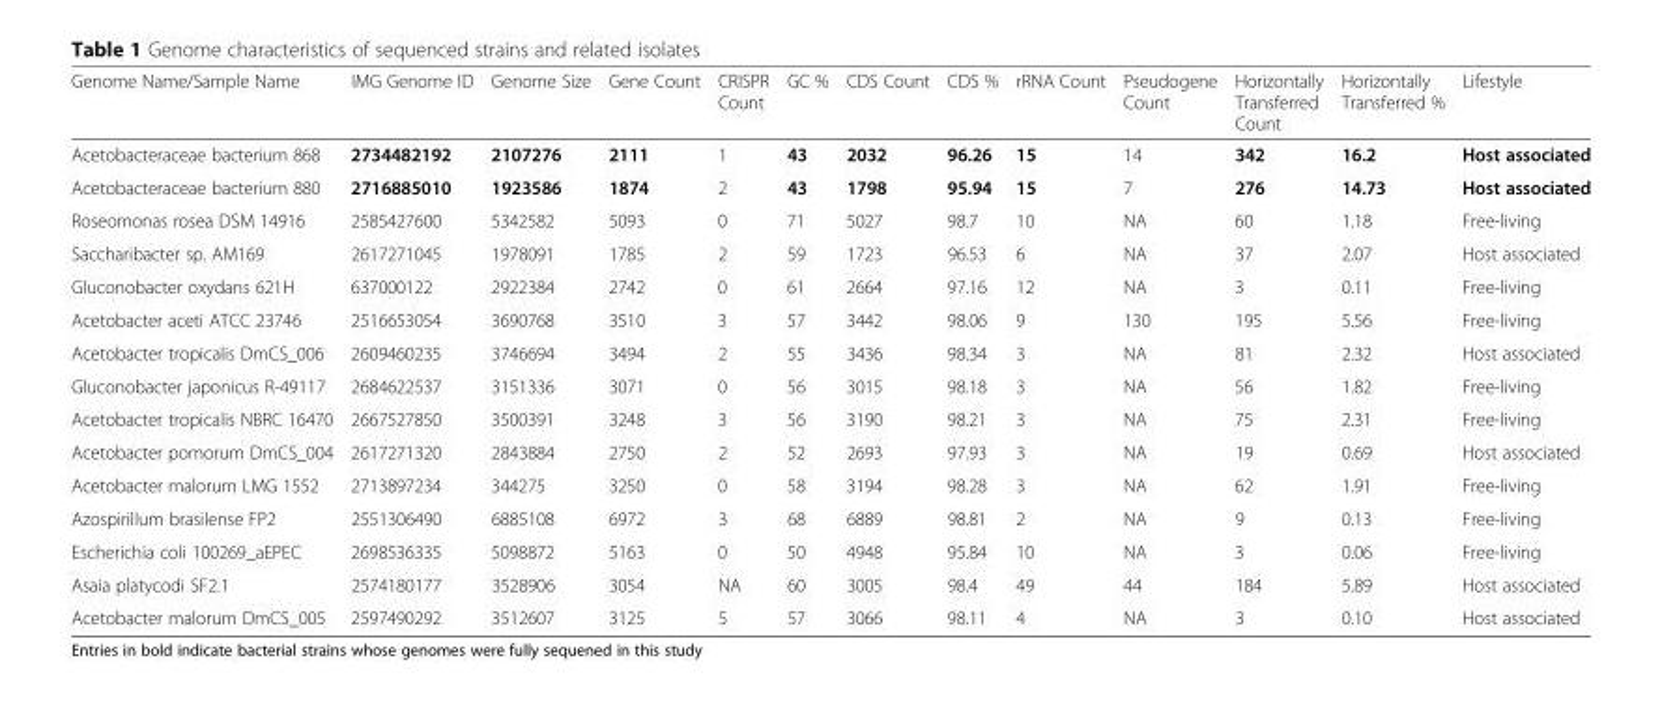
<table><thead><tr><td>Genome Name/Sample Name</td><td>IMG Genome ID</td><td>Genome Size</td><td>Gene Count</td><td>CRISPR Count</td><td>GC %</td><td>CDS Count</td><td>CDS %</td><td>rRNA Count</td><td>Pseudogene Count</td><td>Horizontally Transferred Count</td><td>Horizontally Transferred %</td><td>Lifestyle</td></tr></thead><tbody><tr><td>Acetobacteraceae bacterium 868</td><td>2734482192</td><td>2107276</td><td>2111</td><td>1</td><td>43</td><td>2032</td><td>96.26</td><td>15</td><td>14</td><td>342</td><td>16.2</td><td>Host associated</td></tr><tr><td>Acetobacteraceae bacterium 880</td><td>2716885010</td><td>1923586</td><td>1874</td><td>2</td><td>43</td><td>1798</td><td>95.94</td><td>15</td><td>7</td><td>276</td><td>14.73</td><td>Host associated</td></tr><tr><td>Roseomonas rosea DSM 14916</td><td>2585427600</td><td>5342582</td><td>5093</td><td>0</td><td>71</td><td>5027</td><td>98.7</td><td>10</td><td>NA</td><td>60</td><td>1.18</td><td>Free-living</td></tr><tr><td>Saccharibacter sp. AM169</td><td>2617271045</td><td>1978091</td><td>1785</td><td>2</td><td>59</td><td>1723</td><td>96.53</td><td>6</td><td>NA</td><td>37</td><td>2.07</td><td>Host associated</td></tr><tr><td>Gluconobacter oxydans 621H</td><td>637000122</td><td>2922384</td><td>2742</td><td>0</td><td>61</td><td>2664</td><td>97.16</td><td>12</td><td>NA</td><td>3</td><td>0.11</td><td>Free-living</td></tr><tr><td>Acetobacter aceti ATCC 23746</td><td>2516653054</td><td>3690768</td><td>3510</td><td>3</td><td>57</td><td>3442</td><td>98.06</td><td>9</td><td>130</td><td>195</td><td>5.56</td><td>Free-living</td></tr><tr><td>Acetobacter tropicalis DmCS_006</td><td>2609460235</td><td>3746694</td><td>3494</td><td>2</td><td>55</td><td>3436</td><td>98.34</td><td>3</td><td>NA</td><td>81</td><td>2.32</td><td>Host associated</td></tr><tr><td>Gluconobacter japonicus R-49117</td><td>2684622537</td><td>3151336</td><td>3071</td><td>0</td><td>56</td><td>3015</td><td>98.18</td><td>3</td><td>NA</td><td>56</td><td>1.82</td><td>Free-living</td></tr><tr><td>Acetobacter tropicalis NBRC 16470</td><td>2667527850</td><td>3500391</td><td>3248</td><td>3</td><td>56</td><td>3190</td><td>98.21</td><td>3</td><td>NA</td><td>75</td><td>2.31</td><td>Free-living</td></tr><tr><td>Acetobacter pomorum DmCS_004</td><td>2617271320</td><td>2843884</td><td>2750</td><td>2</td><td>52</td><td>2693</td><td>97.93</td><td>3</td><td>NA</td><td>19</td><td>0.69</td><td>Host associated</td></tr><tr><td>Acetobacter malorum LMG 1552</td><td>2713897234</td><td>344275</td><td>3250</td><td>0</td><td>58</td><td>3194</td><td>98.28</td><td>3</td><td>NA</td><td>62</td><td>1.91</td><td>Free-living</td></tr><tr><td>Azospirillum brasilense FP2</td><td>2551306490</td><td>6885108</td><td>6972</td><td>3</td><td>68</td><td>6889</td><td>98.81</td><td>2</td><td>NA</td><td>9</td><td>0.13</td><td>Free-living</td></tr><tr><td>Escherichia coli 100269_aEPEC</td><td>2698536335</td><td>5098872</td><td>5163</td><td>0</td><td>50</td><td>4948</td><td>95.84</td><td>10</td><td>NA</td><td>3</td><td>0.06</td><td>Free-living</td></tr><tr><td>Asaia platycodi SF2.1</td><td>2574180177</td><td>3528906</td><td>3054</td><td>NA</td><td>60</td><td>3005</td><td>98.4</td><td>49</td><td>44</td><td>184</td><td>5.89</td><td>Host associated</td></tr><tr><td>Acetobacter malorum DmCS_005</td><td>2597490292</td><td>3512607</td><td>3125</td><td>5</td><td>57</td><td>3066</td><td>98.11</td><td>4</td><td>NA</td><td>3</td><td>0.10</td><td>Host associated</td></tr></tbody></table>